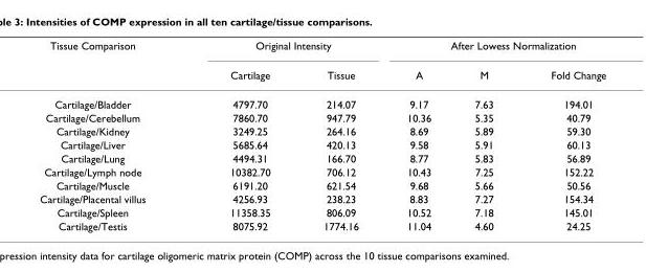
<table><thead><tr><td rowspan="2">Tissue Comparison</td><td colspan="2">Original Intensity</td><td colspan="3">After Lowess Normalization</td></tr><tr><td>Cartilage</td><td>Tissue</td><td>A</td><td>M</td><td>Fold Change</td></tr></thead><tbody><tr><td>Cartilage/Bladder</td><td>4797.70</td><td>214.07</td><td>9.17</td><td>7.63</td><td>194.01</td></tr><tr><td>Cartilage/Cerebellum</td><td>7860.70</td><td>947.79</td><td>10.36</td><td>5.35</td><td>40.79</td></tr><tr><td>Cartilage/Kidney</td><td>3249.25</td><td>264.16</td><td>8.69</td><td>5.89</td><td>59.30</td></tr><tr><td>Cartilage/Liver</td><td>5685.64</td><td>420.13</td><td>9.58</td><td>5.91</td><td>60.13</td></tr><tr><td>Cartilage/Lung</td><td>4494.31</td><td>166.70</td><td>8.77</td><td>5.83</td><td>56.89</td></tr><tr><td>Cartilage/Lymph node</td><td>10382.70</td><td>706.12</td><td>10.43</td><td>7.25</td><td>152.22</td></tr><tr><td>Cartilage/Muscle</td><td>6191.20</td><td>621.54</td><td>9.68</td><td>5.66</td><td>50.56</td></tr><tr><td>Cartilage/Placental villus</td><td>4256.93</td><td>238.23</td><td>8.83</td><td>7.27</td><td>154.34</td></tr><tr><td>Cartilage/Spleen</td><td>11358.35</td><td>806.09</td><td>10.52</td><td>7.18</td><td>145.01</td></tr><tr><td>Cartilage/Testis</td><td>8075.92</td><td>1774.16</td><td>11.04</td><td>4.60</td><td>24.25</td></tr></tbody></table>